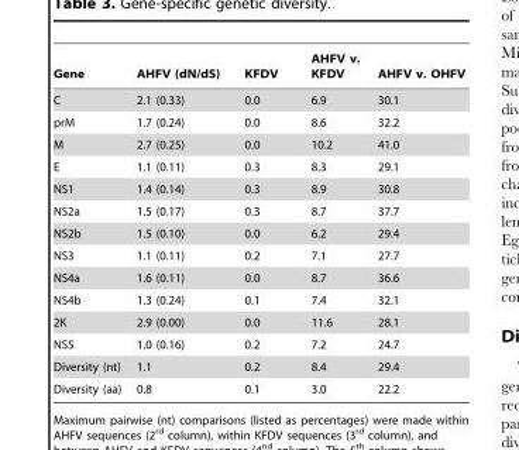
<table><thead><tr><td>Gene</td><td>AHFV (dN/dS)</td><td>KFDV</td><td>AHFV v. KFDV</td><td>AHFV v. OHFV</td></tr></thead><tbody><tr><td>C</td><td>2.1 (0.33)</td><td>0.0</td><td>6.9</td><td>30.1</td></tr><tr><td>prM</td><td>1.7 (0.24)</td><td>0.0</td><td>8.6</td><td>32.2</td></tr><tr><td>M</td><td>2.7 (0.25)</td><td>0.0</td><td>10.2</td><td>41.0</td></tr><tr><td>E</td><td>1.1 (0.11)</td><td>0.3</td><td>8.3</td><td>29.1</td></tr><tr><td>NS1</td><td>1.4 (0.14)</td><td>0.3</td><td>8.9</td><td>30.8</td></tr><tr><td>NS2a</td><td>1.5 (0.17)</td><td>0.3</td><td>8.7</td><td>37.7</td></tr><tr><td>NS2b</td><td>1.5 (0.10)</td><td>0.0</td><td>6.2</td><td>29.4</td></tr><tr><td>NS3</td><td>1.1 (0.11)</td><td>0.2</td><td>7.1</td><td>27.7</td></tr><tr><td>NS4a</td><td>1.6 (0.11)</td><td>0.0</td><td>8.7</td><td>36.6</td></tr><tr><td>NS4b</td><td>1.3 (0.24)</td><td>0.1</td><td>7.4</td><td>32.1</td></tr><tr><td>2K</td><td>2.9 (0.00)</td><td>0.0</td><td>11.6</td><td>28.1</td></tr><tr><td>NS5</td><td>1.0 (0.16)</td><td>0.2</td><td>7.2</td><td>24.7</td></tr><tr><td>Diversity (nt)</td><td>1.1</td><td>0.2</td><td>8.4</td><td>29.4</td></tr><tr><td>Diversity (aa)</td><td>0.8</td><td>0.1</td><td>3.0</td><td>22.2</td></tr></tbody></table>